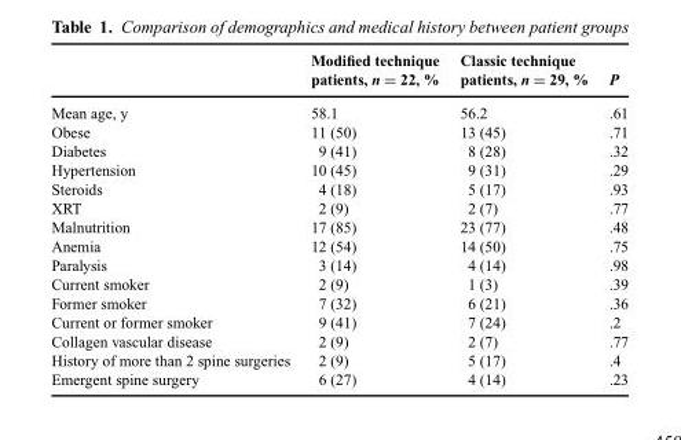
<table><thead><tr><td></td><td>Modified technique patients, n = 22, %</td><td>Classic technique patients, n = 29, %</td><td>P</td></tr></thead><tbody><tr><td>Mean age, y</td><td>58.1</td><td>56.2</td><td>.61</td></tr><tr><td>Obese</td><td>11 (50)</td><td>13 (45)</td><td>.71</td></tr><tr><td>Diabetes</td><td>9 (41)</td><td>8 (28)</td><td>.32</td></tr><tr><td>Hypertension</td><td>10 (45)</td><td>9 (31)</td><td>.29</td></tr><tr><td>Steroids</td><td>4 (18)</td><td>5 (17)</td><td>.93</td></tr><tr><td>XRT</td><td>2 (9)</td><td>2 (7)</td><td>.77</td></tr><tr><td>Malnutrition</td><td>17 (85)</td><td>23 (77)</td><td>.48</td></tr><tr><td>Anemia</td><td>12 (54)</td><td>14 (50)</td><td>.75</td></tr><tr><td>Paralysis</td><td>3 (14)</td><td>4 (14)</td><td>.98</td></tr><tr><td>Current smoker</td><td>2 (9)</td><td>1 (3)</td><td>.39</td></tr><tr><td>Former smoker</td><td>7 (32)</td><td>6 (21)</td><td>.36</td></tr><tr><td>Current or former smoker</td><td>9 (41)</td><td>7 (24)</td><td>.2</td></tr><tr><td>Collagen vascular disease</td><td>2 (9)</td><td>2 (7)</td><td>.77</td></tr><tr><td>History of more than 2 spine surgeries</td><td>2 (9)</td><td>5 (17)</td><td>.4</td></tr><tr><td>Emergent spine surgery</td><td>6 (27)</td><td>4 (14)</td><td>.23</td></tr></tbody></table>